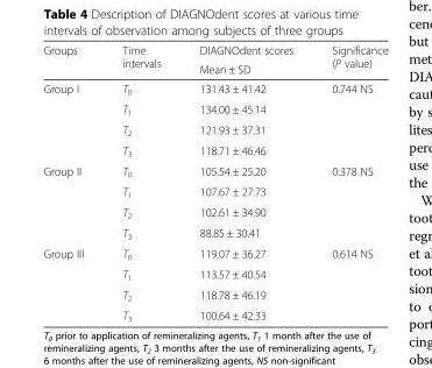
<table><thead><tr><td rowspan="2">Groups</td><td rowspan="2">Time intervals</td><td rowspan="2">DIAGNOdent scores Mean ± SD</td><td rowspan="2">Significance (P value)</td></tr><tr></tr></thead><tbody><tr><td rowspan="4">Group I</td><td>T<sub>0</sub></td><td>131.43 ± 41.42</td><td rowspan="4">0.744 NS</td></tr><tr><td>T<sub>1</sub></td><td>134.00 ± 45.14</td></tr><tr><td>T<sub>2</sub></td><td>121.93 ± 37.31</td></tr><tr><td>T<sub>3</sub></td><td>118.71 ± 46.46</td></tr><tr><td rowspan="4">Group II</td><td>T<sub>0</sub></td><td>105.54 ± 25.20</td><td rowspan="4">0.378 NS</td></tr><tr><td>T<sub>1</sub></td><td>107.67 ± 27.73</td></tr><tr><td>T<sub>2</sub></td><td>102.61 ± 34.90</td></tr><tr><td>T<sub>3</sub></td><td>88.85 ± 30.41</td></tr><tr><td rowspan="4">Group III</td><td>T<sub>0</sub></td><td>119.07 ± 36.27</td><td rowspan="4">0.614 NS</td></tr><tr><td>T<sub>1</sub></td><td>113.57 ± 40.54</td></tr><tr><td>T<sub>2</sub></td><td>118.78 ± 46.19</td></tr><tr><td>T<sub>3</sub></td><td>100.64 ± 42.33</td></tr></tbody></table>